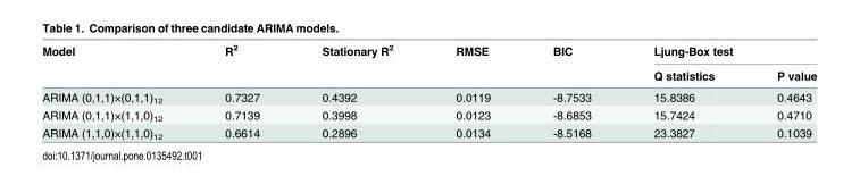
<table><thead><tr><td rowspan="2">Model</td><td rowspan="2">R<sup>2</sup></td><td rowspan="2">Stationary R<sup>2</sup></td><td rowspan="2">RMSE</td><td rowspan="2">BIC</td><td colspan="2">Ljung-Box test</td></tr><tr><td>Q statistics</td><td>P value</td></tr></thead><tbody><tr><td>ARIMA (0,1,1)×(0,1,1)<sub>12</sub></td><td>0.7327</td><td>0.4392</td><td>0.0119</td><td>-8.7533</td><td>15.8386</td><td>0.4643</td></tr><tr><td>ARIMA (0,1,1)×(1,1,0)<sub>12</sub></td><td>0.7139</td><td>0.3998</td><td>0.0123</td><td>-8.6853</td><td>15.7424</td><td>0.4710</td></tr><tr><td>ARIMA (1,1,0)×(1,1,0)<sub>12</sub></td><td>0.6614</td><td>0.2896</td><td>0.0134</td><td>-8.5168</td><td>23.3827</td><td>0.1039</td></tr></tbody></table>